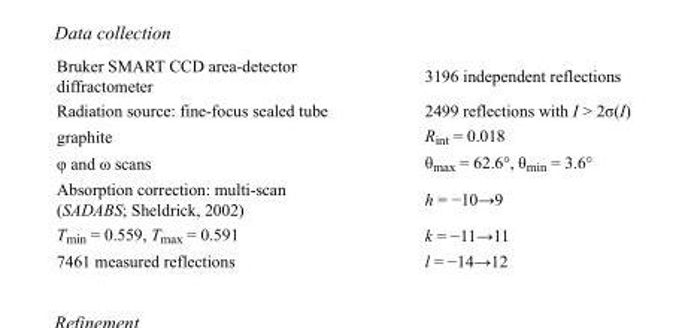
<table><tbody><tr><td>Bruker SMART CCD area-detector diffractometer</td><td>3196 independent reflections</td></tr><tr><td>Radiation source: fine-focus sealed tube</td><td>2499 reflections with I &gt; 2σ(I)</td></tr><tr><td>graphite</td><td>R<sub>int</sub> = 0.018</td></tr><tr><td>φ and ω scans</td><td>θ<sub>max</sub> = 62.6°, θ<sub>min</sub> = 3.6°</td></tr><tr><td>Absorption correction: multi-scan (SADABS; Sheldrick, 2002)</td><td>h = −10→9</td></tr><tr><td>T<sub>min</sub> = 0.559, T<sub>max</sub> = 0.591</td><td>k = −11→11</td></tr><tr><td>7461 measured reflections</td><td>l = −14→12</td></tr></tbody></table>